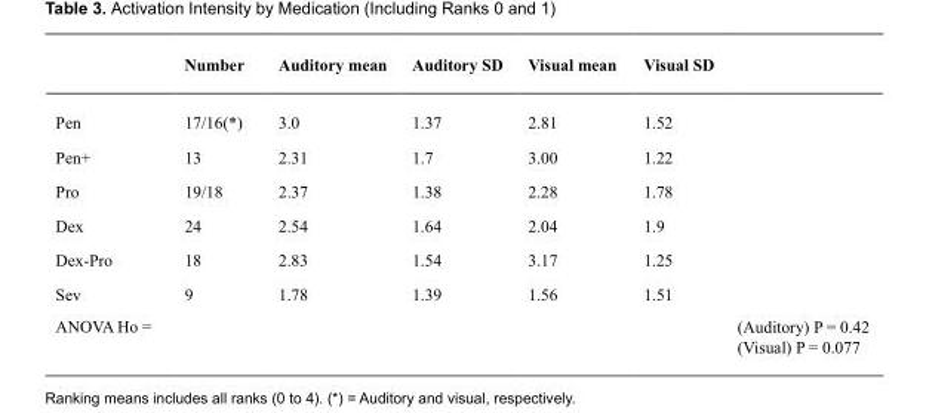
<table><thead><tr><td></td><td>Number</td><td>Auditory mean</td><td>Auditory SD</td><td>Visual mean</td><td>Visual SD</td><td></td></tr></thead><tbody><tr><td>Pen</td><td>17/16(*)</td><td>3.0</td><td>1.37</td><td>2.81</td><td>1.52</td><td></td></tr><tr><td>Pen+</td><td>13</td><td>2.31</td><td>1.7</td><td>3.00</td><td>1.22</td><td></td></tr><tr><td>Pro</td><td>19/18</td><td>2.37</td><td>1.38</td><td>2.28</td><td>1.78</td><td></td></tr><tr><td>Dex</td><td>24</td><td>2.54</td><td>1.64</td><td>2.04</td><td>1.9</td><td></td></tr><tr><td>Dex-Pro</td><td>18</td><td>2.83</td><td>1.54</td><td>3.17</td><td>1.25</td><td></td></tr><tr><td>Sev</td><td>9</td><td>1.78</td><td>1.39</td><td>1.56</td><td>1.51</td><td></td></tr><tr><td rowspan="2">ANOVA Ho =</td><td></td><td></td><td></td><td></td><td></td><td>(Auditory) P = 0.42</td></tr><tr><td></td><td></td><td></td><td></td><td></td><td>(Visual) P = 0.077</td></tr></tbody></table>